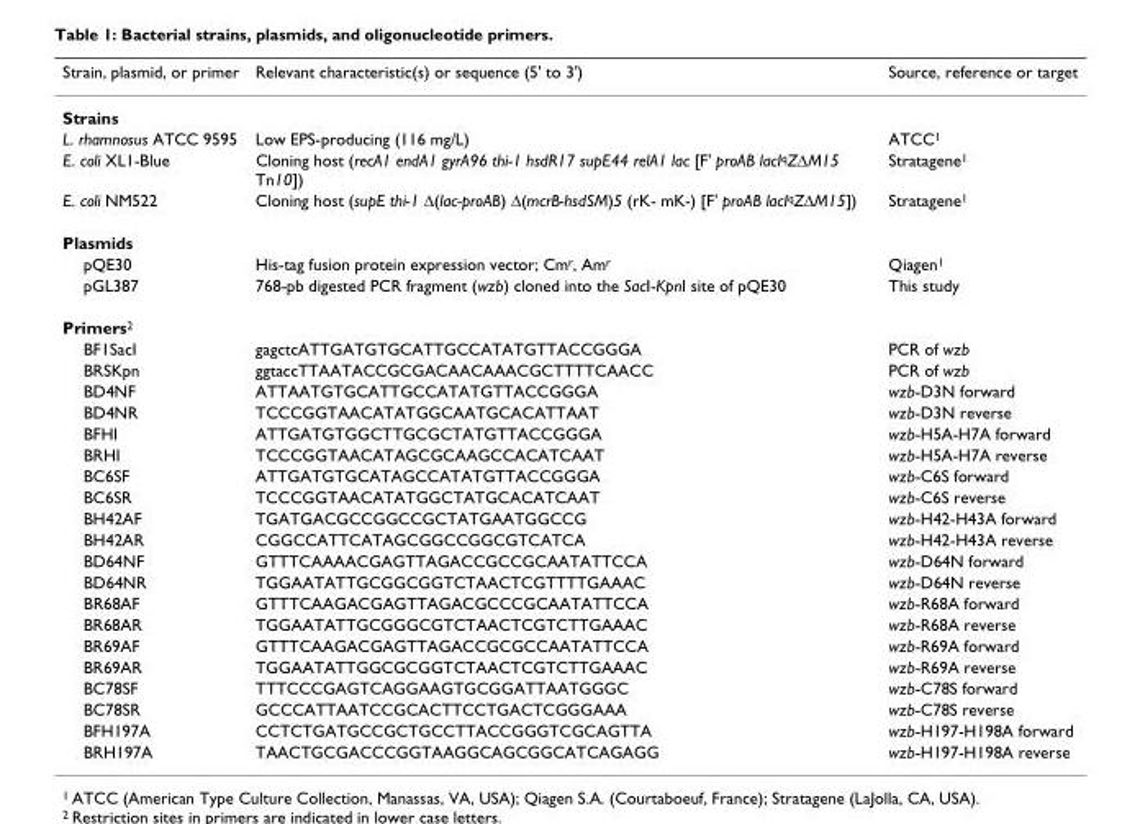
<table><thead><tr><td>Strain, plasmid, or primer</td><td>Relevant characteristic(s) or sequence (5&#x27; to 3&#x27;)</td><td>Source, reference or target</td></tr></thead><tbody><tr><td colspan="3">Strains</td></tr><tr><td>L. rhamnosus ATCC 9595</td><td>Low EPS-producing (116 mg/L)</td><td>ATCC<sup>1</sup></td></tr><tr><td>E. coli XL1-Blue</td><td>Cloning host (recA1 endA1 gyrA96 thi-1 hsdR17 supE44 relA1 lac [F&#x27; proAB lacI<sup>q</sup>ZΔM15 Tn10])</td><td>Stratagene<sup>1</sup></td></tr><tr><td>E. coli NM522</td><td>Cloning host (supE thi-1 Δ(lac-proAB) Δ(mcrB-hsdSM)5 (rK- mK-) [F&#x27; proAB lacI<sup>q</sup>ZΔM15])</td><td>Stratagene<sup>1</sup></td></tr><tr><td colspan="3">Plasmids</td></tr><tr><td>pQE30</td><td>His-tag fusion protein expression vector; Cm<sup>r</sup>, Am<sup>r</sup></td><td>Qiagen<sup>1</sup></td></tr><tr><td>pGL387</td><td>768-pb digested PCR fragment (wzb) cloned into the SacI-KpnI site of pQE30</td><td>This study</td></tr><tr><td colspan="3">Primers<sup>2</sup></td></tr><tr><td>BF1SacI</td><td>gagctcATTGATGTGCATTGCCATATGTTACCGGGA</td><td>PCR of wzb</td></tr><tr><td>BRSKpn</td><td>ggtaccTTAATACCGCGACAACAAACGCTTTTCAACC</td><td>PCR of wzb</td></tr><tr><td>BD4NF</td><td>ATTAATGTGCATTGCCATATGTTACCGGGA</td><td>wzb-D3N forward</td></tr><tr><td>BD4NR</td><td>TCCCGGTAACATATGGCAATGCACATTAAT</td><td>wzb-D3N reverse</td></tr><tr><td>BFHI</td><td>ATTGATGTGGCTTGCGCTATGTTACCGGGA</td><td>wzb-H5A-H7A forward</td></tr><tr><td>BRHI</td><td>TCCCGGTAACATAGCGCAAGCCACATCAAT</td><td>wzb-H5A-H7A reverse</td></tr><tr><td>BC6SF</td><td>ATTGATGTGCATAGCCATATGTTACCGGGA</td><td>wzb-C6S forward</td></tr><tr><td>BC6SR</td><td>TCCCGGTAACATATGGCTATGCACATCAAT</td><td>wzb-C6S reverse</td></tr><tr><td>BH42AF</td><td>TGATGACGCCGGCCGCTATGAATGGCCG</td><td>wzb-H42-H43A forward</td></tr><tr><td>BH42AR</td><td>CGGCCATTCATAGCGGCCGGCGTCATCA</td><td>wzb-H42-H43A reverse</td></tr><tr><td>BD64NF</td><td>GTTTCAAAACGAGTTAGACCGCCGCAATATTCCA</td><td>wzb-D64N forward</td></tr><tr><td>BD64NR</td><td>TGGAATATTGCGGCGGTCTAACTCGTTTTGAAAC</td><td>wzb-D64N reverse</td></tr><tr><td>BR68AF</td><td>GTTTCAAGACGAGTTAGACGCCCGCAATATTCCA</td><td>wzb-R68A forward</td></tr><tr><td>BR68AR</td><td>TGGAATATTGCGGGCGTCTAACTCGTCTTGAAAC</td><td>wzb-R68A reverse</td></tr><tr><td>BR69AF</td><td>GTTTCAAGACGAGTTAGACCGCGCCAATATTCCA</td><td>wzb-R69A forward</td></tr><tr><td>BR69AR</td><td>TGGAATATTGGCGCGGTCTAACTCGTCTTGAAAC</td><td>wzb-R69A reverse</td></tr><tr><td>BC78SF</td><td>TTTCCCGAGTCAGGAAGTGCGGATTAATGGGC</td><td>wzb-C78S forward</td></tr><tr><td>BC78SR</td><td>GCCCATTAATCCGCACTTCCTGACTCGGGAAA</td><td>wzb-C78S reverse</td></tr><tr><td>BFH197A</td><td>CCTCTGATGCCGCTGCCTTACCGGGTCGCAGTTA</td><td>wzb-H197-H198A forward</td></tr><tr><td>BRH197A</td><td>TAACTGCGACCCGGTAAGGCAGCGGCATCAGAGG</td><td>wzb-H197-H198A reverse</td></tr></tbody></table>